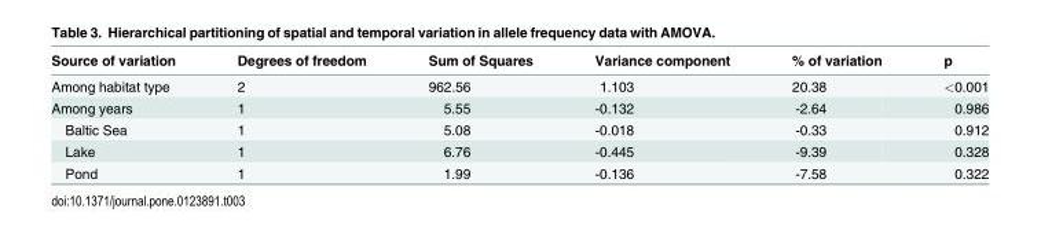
<table><thead><tr><td>Source of variation</td><td>Degrees of freedom</td><td>Sum of Squares</td><td>Variance component</td><td>% of variation</td><td>p</td></tr></thead><tbody><tr><td>Among habitat type</td><td>2</td><td>962.56</td><td>1.103</td><td>20.38</td><td>&lt;0.001</td></tr><tr><td>Among years</td><td>1</td><td>5.55</td><td>-0.132</td><td>-2.64</td><td>0.986</td></tr><tr><td>Baltic Sea</td><td>1</td><td>5.08</td><td>-0.018</td><td>-0.33</td><td>0.912</td></tr><tr><td>Lake</td><td>1</td><td>6.76</td><td>-0.445</td><td>-9.39</td><td>0.328</td></tr><tr><td>Pond</td><td>1</td><td>1.99</td><td>-0.136</td><td>-7.58</td><td>0.322</td></tr></tbody></table>